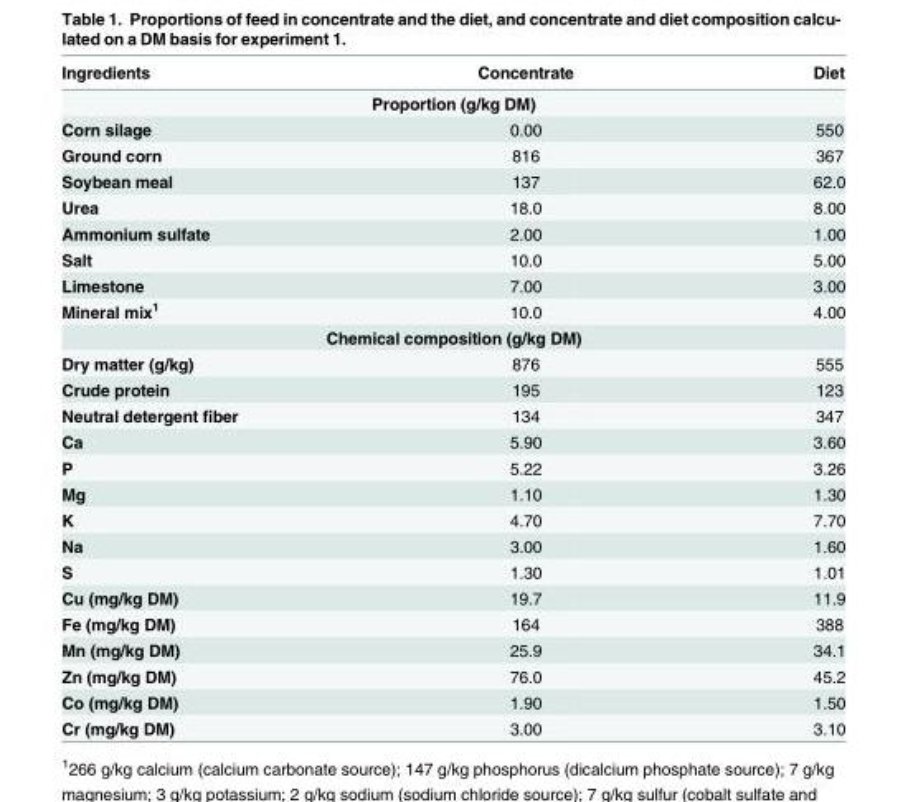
<table><thead><tr><td>Ingredients</td><td>Concentrate</td><td>Diet</td></tr></thead><tbody><tr><td colspan="3">Proportion (g/kg DM)</td></tr><tr><td>Corn silage</td><td>0.00</td><td>550</td></tr><tr><td>Ground corn</td><td>816</td><td>367</td></tr><tr><td>Soybean meal</td><td>137</td><td>62.0</td></tr><tr><td>Urea</td><td>18.0</td><td>8.00</td></tr><tr><td>Ammonium sulfate</td><td>2.00</td><td>1.00</td></tr><tr><td>Salt</td><td>10.0</td><td>5.00</td></tr><tr><td>Limestone</td><td>7.00</td><td>3.00</td></tr><tr><td>Mineral mix<sup>1</sup></td><td>10.0</td><td>4.00</td></tr><tr><td colspan="3">Chemical composition (g/kg DM)</td></tr><tr><td>Dry matter (g/kg)</td><td>876</td><td>555</td></tr><tr><td>Crude protein</td><td>195</td><td>123</td></tr><tr><td>Neutral detergent fiber</td><td>134</td><td>347</td></tr><tr><td>Ca</td><td>5.90</td><td>3.60</td></tr><tr><td>P</td><td>5.22</td><td>3.26</td></tr><tr><td>Mg</td><td>1.10</td><td>1.30</td></tr><tr><td>K</td><td>4.70</td><td>7.70</td></tr><tr><td>Na</td><td>3.00</td><td>1.60</td></tr><tr><td>S</td><td>1.30</td><td>1.01</td></tr><tr><td>Cu (mg/kg DM)</td><td>19.7</td><td>11.9</td></tr><tr><td>Fe (mg/kg DM)</td><td>164</td><td>388</td></tr><tr><td>Mn (mg/kg DM)</td><td>25.9</td><td>34.1</td></tr><tr><td>Zn (mg/kg DM)</td><td>76.0</td><td>45.2</td></tr><tr><td>Co (mg/kg DM)</td><td>1.90</td><td>1.50</td></tr><tr><td>Cr (mg/kg DM)</td><td>3.00</td><td>3.10</td></tr></tbody></table>